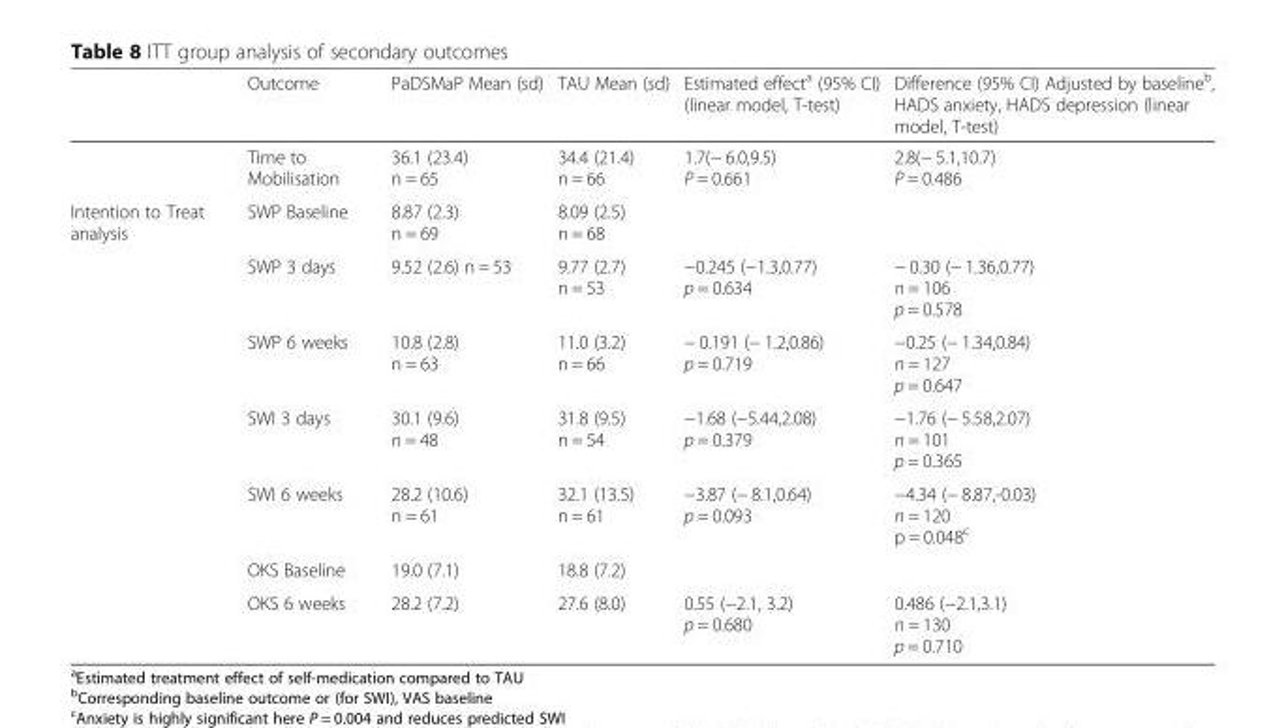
<table><thead><tr><td></td><td>Outcome</td><td>PaDSMaP Mean (sd)</td><td>TAU Mean (sd)</td><td>Estimated effect<sup>a</sup> (95% CI) (linear model, T-test)</td><td>Difference (95% CI) Adjusted by baseline<sup>b</sup>, HADS anxiety, HADS depression (linear model, T-test)</td></tr></thead><tbody><tr><td></td><td>Time to Mobilisation</td><td>36.1 (23.4) n = 65</td><td>34.4 (21.4) n = 66</td><td>1.7(− 6.0,9.5) P = 0.661</td><td>2.8(− 5.1,10.7) P = 0.486</td></tr><tr><td rowspan="7">Intention to Treat analysis</td><td>SWP Baseline</td><td>8.87 (2.3) n = 69</td><td>8.09 (2.5) n = 68</td><td></td><td></td></tr><tr><td>SWP 3 days</td><td>9.52 (2.6) n = 53</td><td>9.77 (2.7) n = 53</td><td>−0.245 (−1.3,0.77) p = 0.634</td><td>− 0.30 (− 1.36,0.77) n = 106 p = 0.578</td></tr><tr><td>SWP 6 weeks</td><td>10.8 (2.8) n = 63</td><td>11.0 (3.2) n = 66</td><td>− 0.191 (− 1.2,0.86) p = 0.719</td><td>−0.25 (− 1.34,0.84) n = 127 p = 0.647</td></tr><tr><td>SWI 3 days</td><td>30.1 (9.6) n = 48</td><td>31.8 (9.5) n = 54</td><td>−1.68 (−5.44,2.08) p = 0.379</td><td>−1.76 (− 5.58,2.07) n = 101 p = 0.365</td></tr><tr><td>SWI 6 weeks</td><td>28.2 (10.6) n = 61</td><td>32.1 (13.5) n = 61</td><td>−3.87 (− 8.1,0.64) p = 0.093</td><td>−4.34 (− 8.87,-0.03) n = 120 p = 0.048<sup>c</sup></td></tr><tr><td>OKS Baseline</td><td>19.0 (7.1)</td><td>18.8 (7.2)</td><td></td><td></td></tr><tr><td>OKS 6 weeks</td><td>28.2 (7.2)</td><td>27.6 (8.0)</td><td>0.55 (−2.1, 3.2) p = 0.680</td><td>0.486 (−2.1,3.1) n = 130 p = 0.710</td></tr></tbody></table>